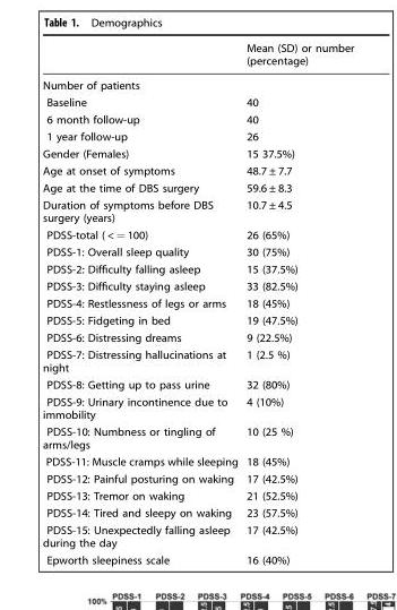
<table><thead><tr><td></td><td>Mean (SD) or number (percentage)</td></tr></thead><tbody><tr><td colspan="2">Number of patients</td></tr><tr><td>Baseline</td><td>40</td></tr><tr><td>6 month follow-up</td><td>40</td></tr><tr><td>1 year follow-up</td><td>26</td></tr><tr><td>Gender (Females)</td><td>15 37.5%)</td></tr><tr><td>Age at onset of symptoms</td><td>48.7 ± 7.7</td></tr><tr><td>Age at the time of DBS surgery</td><td>59.6 ± 8.3</td></tr><tr><td>Duration of symptoms before DBS surgery (years)</td><td>10.7 ± 4.5</td></tr><tr><td>PDSS-total ( &lt; = 100)</td><td>26 (65%)</td></tr><tr><td>PDSS-1: Overall sleep quality</td><td>30 (75%)</td></tr><tr><td>PDSS-2: Difficulty falling asleep</td><td>15 (37.5%)</td></tr><tr><td>PDSS-3: Difficulty staying asleep</td><td>33 (82.5%)</td></tr><tr><td>PDSS-4: Restlessness of legs or arms</td><td>18 (45%)</td></tr><tr><td>PDSS-5: Fidgeting in bed</td><td>19 (47.5%)</td></tr><tr><td>PDSS-6: Distressing dreams</td><td>9 (22.5%)</td></tr><tr><td>PDSS-7: Distressing hallucinations at night</td><td>1 (2.5 %)</td></tr><tr><td>PDSS-8: Getting up to pass urine</td><td>32 (80%)</td></tr><tr><td>PDSS-9: Urinary incontinence due to immobility</td><td>4 (10%)</td></tr><tr><td>PDSS-10: Numbness or tingling of arms/legs</td><td>10 (25 %)</td></tr><tr><td>PDSS-11: Muscle cramps while sleeping</td><td>18 (45%)</td></tr><tr><td>PDSS-12: Painful posturing on waking</td><td>17 (42.5%)</td></tr><tr><td>PDSS-13: Tremor on waking</td><td>21 (52.5%)</td></tr><tr><td>PDSS-14: Tired and sleepy on waking</td><td>23 (57.5%)</td></tr><tr><td>PDSS-15: Unexpectedly falling asleep during the day</td><td>17 (42.5%)</td></tr><tr><td>Epworth sleepiness scale</td><td>16 (40%)</td></tr></tbody></table>